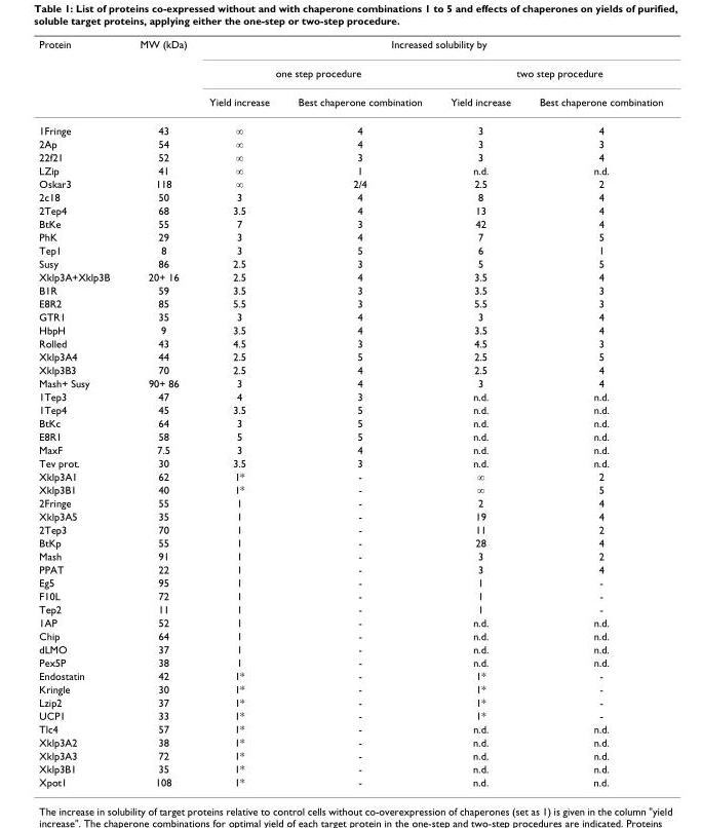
<table><thead><tr><td rowspan="3">Protein</td><td rowspan="3">MW (kDa)</td><td colspan="4">Increased solubility by</td></tr><tr><td colspan="2">one step procedure</td><td colspan="2">two step procedure</td></tr><tr><td>Yield increase</td><td>Best chaperone combination</td><td>Yield increase</td><td>Best chaperone combination</td></tr></thead><tbody><tr><td>1Fringe</td><td>43</td><td>∞</td><td>4</td><td>3</td><td>4</td></tr><tr><td>2Ap</td><td>54</td><td>∞</td><td>4</td><td>3</td><td>3</td></tr><tr><td>22f21</td><td>52</td><td>∞</td><td>3</td><td>3</td><td>4</td></tr><tr><td>LZip</td><td>41</td><td>∞</td><td>1</td><td>n.d.</td><td>n.d.</td></tr><tr><td>Oskar3</td><td>118</td><td>∞</td><td>2/4</td><td>2.5</td><td>2</td></tr><tr><td>2c18</td><td>50</td><td>3</td><td>4</td><td>8</td><td>4</td></tr><tr><td>2Tep4</td><td>68</td><td>3.5</td><td>4</td><td>13</td><td>4</td></tr><tr><td>BtKe</td><td>55</td><td>7</td><td>3</td><td>42</td><td>4</td></tr><tr><td>PhK</td><td>29</td><td>3</td><td>4</td><td>7</td><td>5</td></tr><tr><td>Tep1</td><td>8</td><td>3</td><td>5</td><td>6</td><td>1</td></tr><tr><td>Susy</td><td>86</td><td>2.5</td><td>3</td><td>5</td><td>5</td></tr><tr><td>Xklp3A+Xklp3B</td><td>20+ 16</td><td>2.5</td><td>4</td><td>3.5</td><td>4</td></tr><tr><td>B1R</td><td>59</td><td>3.5</td><td>3</td><td>3.5</td><td>3</td></tr><tr><td>E8R2</td><td>85</td><td>5.5</td><td>3</td><td>5.5</td><td>3</td></tr><tr><td>GTR1</td><td>35</td><td>3</td><td>4</td><td>3</td><td>4</td></tr><tr><td>HbpH</td><td>9</td><td>3.5</td><td>4</td><td>3.5</td><td>4</td></tr><tr><td>Rolled</td><td>43</td><td>4.5</td><td>3</td><td>4.5</td><td>3</td></tr><tr><td>Xklp3A4</td><td>44</td><td>2.5</td><td>5</td><td>2.5</td><td>5</td></tr><tr><td>Xklp3B3</td><td>70</td><td>2.5</td><td>4</td><td>2.5</td><td>4</td></tr><tr><td>Mash+ Susy</td><td>90+ 86</td><td>3</td><td>4</td><td>3</td><td>4</td></tr><tr><td>1Tep3</td><td>47</td><td>4</td><td>3</td><td>n.d.</td><td>n.d.</td></tr><tr><td>1Tep4</td><td>45</td><td>3.5</td><td>5</td><td>n.d.</td><td>n.d.</td></tr><tr><td>BtKc</td><td>64</td><td>3</td><td>5</td><td>n.d.</td><td>n.d.</td></tr><tr><td>E8R1</td><td>58</td><td>5</td><td>5</td><td>n.d.</td><td>n.d.</td></tr><tr><td>MaxF</td><td>7.5</td><td>3</td><td>4</td><td>n.d.</td><td>n.d.</td></tr><tr><td>Tev prot.</td><td>30</td><td>3.5</td><td>3</td><td>n.d.</td><td>n.d.</td></tr><tr><td>Xklp3A1</td><td>62</td><td>1*</td><td>-</td><td>∞</td><td>2</td></tr><tr><td>Xklp3B1</td><td>40</td><td>1*</td><td>-</td><td>∞</td><td>5</td></tr><tr><td>2Fringe</td><td>55</td><td>1</td><td>-</td><td>2</td><td>4</td></tr><tr><td>Xklp3A5</td><td>35</td><td>1</td><td>-</td><td>19</td><td>4</td></tr><tr><td>2Tep3</td><td>70</td><td>1</td><td>-</td><td>11</td><td>2</td></tr><tr><td>BtKp</td><td>55</td><td>1</td><td>-</td><td>28</td><td>4</td></tr><tr><td>Mash</td><td>91</td><td>1</td><td>-</td><td>3</td><td>2</td></tr><tr><td>PPAT</td><td>22</td><td>1</td><td>-</td><td>3</td><td>4</td></tr><tr><td>Eg5</td><td>95</td><td>1</td><td>-</td><td>1</td><td>-</td></tr><tr><td>F10L</td><td>72</td><td>1</td><td>-</td><td>1</td><td>-</td></tr><tr><td>Tep2</td><td>11</td><td>1</td><td>-</td><td>1</td><td>-</td></tr><tr><td>1AP</td><td>52</td><td>1</td><td>-</td><td>n.d.</td><td>n.d.</td></tr><tr><td>Chip</td><td>64</td><td>1</td><td>-</td><td>n.d.</td><td>n.d.</td></tr><tr><td>dLMO</td><td>37</td><td>1</td><td>-</td><td>n.d.</td><td>n.d.</td></tr><tr><td>Pex5P</td><td>38</td><td>1</td><td>-</td><td>n.d.</td><td>n.d.</td></tr><tr><td>Endostatin</td><td>42</td><td>1*</td><td>-</td><td>1*</td><td>-</td></tr><tr><td>Kringle</td><td>30</td><td>1*</td><td>-</td><td>1*</td><td>-</td></tr><tr><td>Lzip2</td><td>37</td><td>1*</td><td>-</td><td>1*</td><td>-</td></tr><tr><td>UCP1</td><td>33</td><td>1*</td><td>-</td><td>1*</td><td>-</td></tr><tr><td>Tlc4</td><td>57</td><td>1*</td><td>-</td><td>n.d.</td><td>n.d.</td></tr><tr><td>Xklp3A2</td><td>38</td><td>1*</td><td>-</td><td>n.d.</td><td>n.d.</td></tr><tr><td>Xklp3A3</td><td>72</td><td>1*</td><td>-</td><td>n.d.</td><td>n.d.</td></tr><tr><td>Xklp3B1</td><td>35</td><td>1*</td><td>-</td><td>n.d.</td><td>n.d.</td></tr><tr><td>Xpot1</td><td>108</td><td>1*</td><td>-</td><td>n.d.</td><td>n.d.</td></tr></tbody></table>